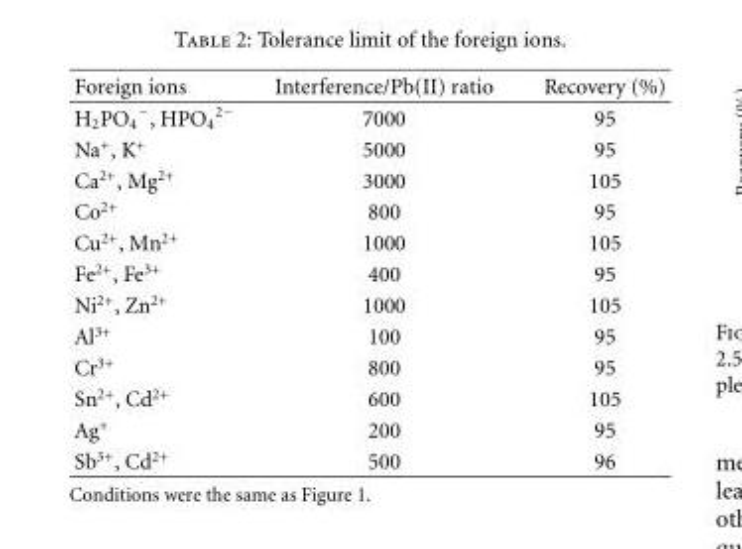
<table><thead><tr><td>Foreign ions</td><td>Interference/Pb(II) ratio</td><td>Recovery (%)</td></tr></thead><tbody><tr><td>H<sub>2</sub>PO<sub>4</sub> <sup>−</sup>, HPO<sub>4</sub> <sup>2−</sup></td><td>7000</td><td>95</td></tr><tr><td>Na<sup>+</sup>, K<sup>+</sup></td><td>5000</td><td>95</td></tr><tr><td>Ca<sup>2+</sup>, Mg<sup>2+</sup></td><td>3000</td><td>105</td></tr><tr><td>Co<sup>2+</sup></td><td>800</td><td>95</td></tr><tr><td>Cu<sup>2+</sup>, Mn<sup>2+</sup></td><td>1000</td><td>105</td></tr><tr><td>Fe<sup>2+</sup>, Fe<sup>3+</sup></td><td>400</td><td>95</td></tr><tr><td>Ni<sup>2+</sup>, Zn<sup>2+</sup></td><td>1000</td><td>105</td></tr><tr><td>Al<sup>3+</sup></td><td>100</td><td>95</td></tr><tr><td>Cr<sup>3+</sup></td><td>800</td><td>95</td></tr><tr><td>Sn<sup>2+</sup>, Cd<sup>2+</sup></td><td>600</td><td>105</td></tr><tr><td>Ag<sup>+</sup></td><td>200</td><td>95</td></tr><tr><td>Sb<sup>3+</sup>, Cd<sup>2+</sup></td><td>500</td><td>96</td></tr></tbody></table>